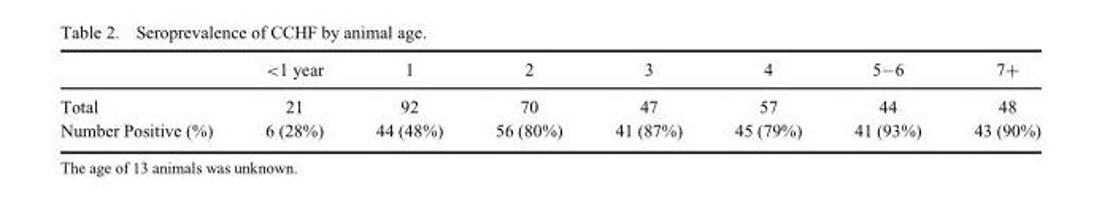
<table><thead><tr><td></td><td>&lt;1 year</td><td>1</td><td>2</td><td>3</td><td>4</td><td>5–6</td><td>7+</td></tr></thead><tbody><tr><td>Total</td><td>21</td><td>92</td><td>70</td><td>47</td><td>57</td><td>44</td><td>48</td></tr><tr><td>Number Positive (%)</td><td>6 (28%)</td><td>44 (48%)</td><td>56 (80%)</td><td>41 (87%)</td><td>45 (79%)</td><td>41 (93%)</td><td>43 (90%)</td></tr></tbody></table>